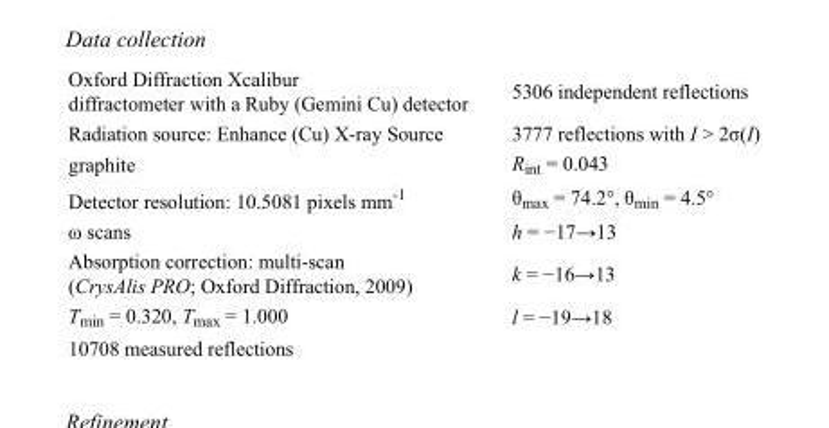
<table><tbody><tr><td>Oxford Diffraction Xcalibur diffractometer with a Ruby (Gemini Cu) detector</td><td>5306 independent reflections</td></tr><tr><td>Radiation source: Enhance (Cu) X-ray Source</td><td>3777 reflections with I &gt; 2σ(I)</td></tr><tr><td>graphite</td><td>R<sub>int</sub> = 0.043</td></tr><tr><td>Detector resolution: 10.5081 pixels mm<sup>-1</sup></td><td>θ<sub>max</sub> = 74.2°, θ<sub>min</sub> = 4.5°</td></tr><tr><td>ω scans</td><td>h = −17→13</td></tr><tr><td>Absorption correction: multi-scan (CrysAlis PRO; Oxford Diffraction, 2009)</td><td>k = −16→13</td></tr><tr><td>T<sub>min</sub> = 0.320, T<sub>max</sub> = 1.000</td><td>l = −19→18</td></tr><tr><td>10708 measured reflections</td><td></td></tr></tbody></table>